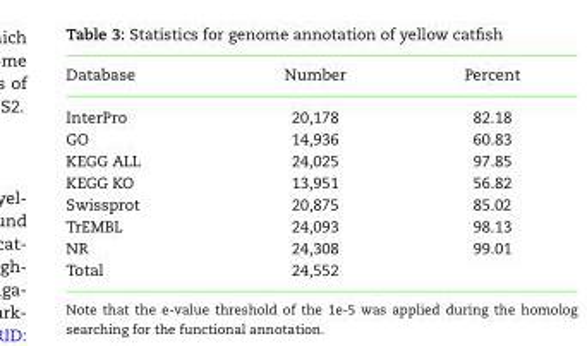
<table><thead><tr><td>Database</td><td>Number</td><td>Percent</td></tr></thead><tbody><tr><td>InterPro</td><td>20,178</td><td>82.18</td></tr><tr><td>GO</td><td>14,936</td><td>60.83</td></tr><tr><td>KEGG ALL</td><td>24,025</td><td>97.85</td></tr><tr><td>KEGG KO</td><td>13,951</td><td>56.82</td></tr><tr><td>Swissprot</td><td>20,875</td><td>85.02</td></tr><tr><td>TrEMBL</td><td>24,093</td><td>98.13</td></tr><tr><td>NR</td><td>24,308</td><td>99.01</td></tr><tr><td>Total</td><td>24,552</td><td></td></tr></tbody></table>